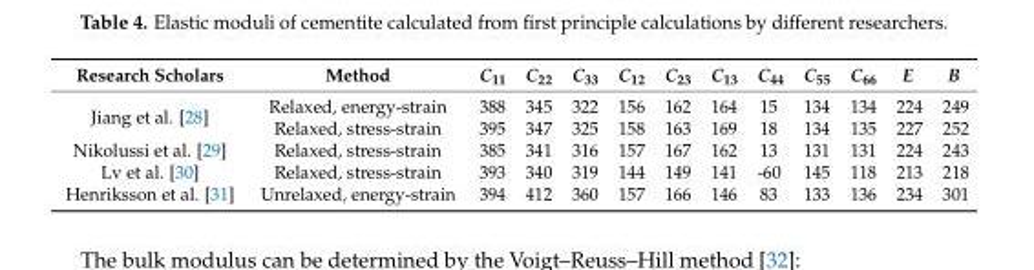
<table><thead><tr><td>Research Scholars</td><td>Method</td><td>C<sub>11</sub></td><td>C<sub>22</sub></td><td>C<sub>33</sub></td><td>C<sub>12</sub></td><td>C<sub>23</sub></td><td>C<sub>13</sub></td><td>C<sub>44</sub></td><td>C<sub>55</sub></td><td>C<sub>66</sub></td><td>E</td><td>B</td></tr></thead><tbody><tr><td rowspan="2">Jiang et al. [28]</td><td>Relaxed, energy-strain</td><td>388</td><td>345</td><td>322</td><td>156</td><td>162</td><td>164</td><td>15</td><td>134</td><td>134</td><td>224</td><td>249</td></tr><tr><td>Relaxed, stress-strain</td><td>395</td><td>347</td><td>325</td><td>158</td><td>163</td><td>169</td><td>18</td><td>134</td><td>135</td><td>227</td><td>252</td></tr><tr><td>Nikolussi et al. [29]</td><td>Relaxed, stress-strain</td><td>385</td><td>341</td><td>316</td><td>157</td><td>167</td><td>162</td><td>13</td><td>131</td><td>131</td><td>224</td><td>243</td></tr><tr><td>Lv et al. [30]</td><td>Relaxed, stress-strain</td><td>393</td><td>340</td><td>319</td><td>144</td><td>149</td><td>141</td><td>-60</td><td>145</td><td>118</td><td>213</td><td>218</td></tr><tr><td>Henriksson et al. [31]</td><td>Unrelaxed, energy-strain</td><td>394</td><td>412</td><td>360</td><td>157</td><td>166</td><td>146</td><td>83</td><td>133</td><td>136</td><td>234</td><td>301</td></tr></tbody></table>